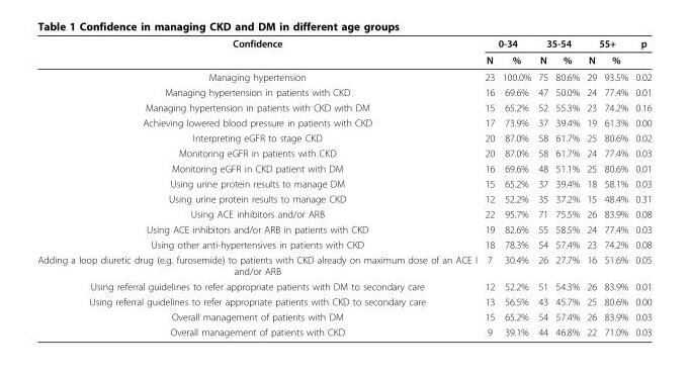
<table><thead><tr><td rowspan="2">Confidence</td><td colspan="2">0-34</td><td colspan="2">35-54</td><td colspan="2">55+</td><td rowspan="2">p</td></tr><tr><td>N</td><td>%</td><td>N</td><td>%</td><td>N</td><td>%</td></tr></thead><tbody><tr><td>Managing hypertension</td><td>23</td><td>100.0%</td><td>75</td><td>80.6%</td><td>29</td><td>93.5%</td><td>0.02</td></tr><tr><td>Managing hypertension in patients with CKD</td><td>16</td><td>69.6%</td><td>47</td><td>50.0%</td><td>24</td><td>77.4%</td><td>0.01</td></tr><tr><td>Managing hypertension in patients with CKD with DM</td><td>15</td><td>65.2%</td><td>52</td><td>55.3%</td><td>23</td><td>74.2%</td><td>0.16</td></tr><tr><td>Achieving lowered blood pressure in patients with CKD</td><td>17</td><td>73.9%</td><td>37</td><td>39.4%</td><td>19</td><td>61.3%</td><td>0.00</td></tr><tr><td>Interpreting eGFR to stage CKD</td><td>20</td><td>87.0%</td><td>58</td><td>61.7%</td><td>25</td><td>80.6%</td><td>0.02</td></tr><tr><td>Monitoring eGFR in patients with CKD</td><td>20</td><td>87.0%</td><td>58</td><td>61.7%</td><td>24</td><td>77.4%</td><td>0.03</td></tr><tr><td>Monitoring eGFR in CKD patient with DM</td><td>16</td><td>69.6%</td><td>48</td><td>51.1%</td><td>25</td><td>80.6%</td><td>0.01</td></tr><tr><td>Using urine protein results to manage DM</td><td>15</td><td>65.2%</td><td>37</td><td>39.4%</td><td>18</td><td>58.1%</td><td>0.03</td></tr><tr><td>Using urine protein results to manage CKD</td><td>12</td><td>52.2%</td><td>35</td><td>37.2%</td><td>15</td><td>48.4%</td><td>0.31</td></tr><tr><td>Using ACE inhibitors and/or ARB</td><td>22</td><td>95.7%</td><td>71</td><td>75.5%</td><td>26</td><td>83.9%</td><td>0.08</td></tr><tr><td>Using ACE inhibitors and/or ARB in patients with CKD</td><td>19</td><td>82.6%</td><td>55</td><td>58.5%</td><td>24</td><td>77.4%</td><td>0.03</td></tr><tr><td>Using other anti-hypertensives in patients with CKD</td><td>18</td><td>78.3%</td><td>54</td><td>57.4%</td><td>23</td><td>74.2%</td><td>0.08</td></tr><tr><td>Adding a loop diuretic drug (e.g. furosemide) to patients with CKD already on maximum dose of an ACE I and/or ARB</td><td>7</td><td>30.4%</td><td>26</td><td>27.7%</td><td>16</td><td>51.6%</td><td>0.05</td></tr><tr><td>Using referral guidelines to refer appropriate patients with DM to secondary care</td><td>12</td><td>52.2%</td><td>51</td><td>54.3%</td><td>26</td><td>83.9%</td><td>0.01</td></tr><tr><td>Using referral guidelines to refer appropriate patients with CKD to secondary care</td><td>13</td><td>56.5%</td><td>43</td><td>45.7%</td><td>25</td><td>80.6%</td><td>0.00</td></tr><tr><td>Overall management of patients with DM</td><td>15</td><td>65.2%</td><td>54</td><td>57.4%</td><td>26</td><td>83.9%</td><td>0.03</td></tr><tr><td>Overall management of patients with CKD</td><td>9</td><td>39.1%</td><td>44</td><td>46.8%</td><td>22</td><td>71.0%</td><td>0.03</td></tr></tbody></table>